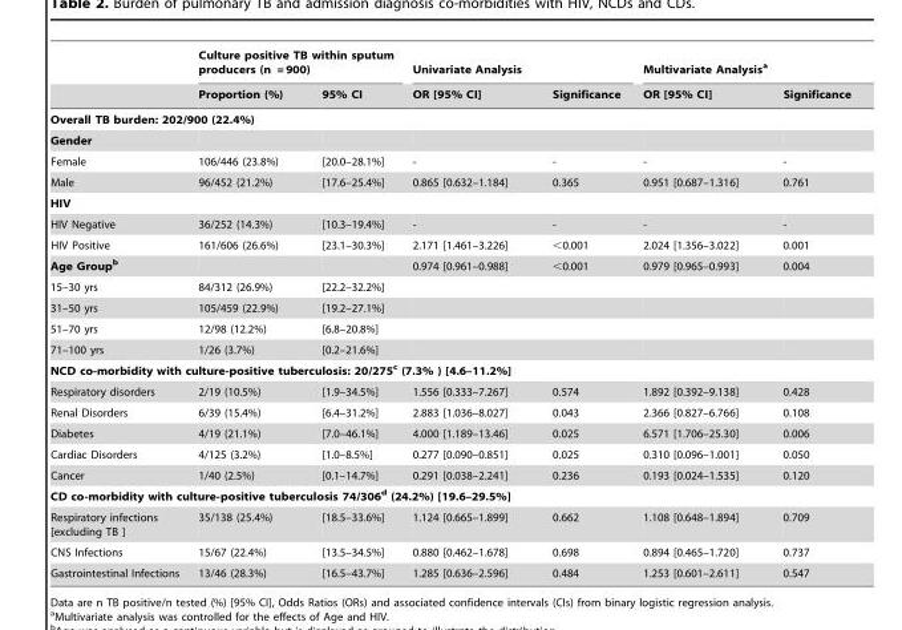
<table><thead><tr><td rowspan="2"></td><td colspan="2">Culture positive TB within sputum producers (n = 900)</td><td colspan="2">Univariate Analysis</td><td colspan="2">Multivariate Analysis<sup>a</sup></td></tr><tr><td>Proportion (%)</td><td>95% CI</td><td>OR [95% CI]</td><td>Significance</td><td>OR [95% CI]</td><td>Significance</td></tr></thead><tbody><tr><td colspan="7">Overall TB burden: 202/900 (22.4%)</td></tr><tr><td colspan="7">Gender</td></tr><tr><td>Female</td><td>106/446 (23.8%)</td><td>[20.0–28.1%]</td><td>-</td><td>-</td><td>-</td><td>-</td></tr><tr><td>Male</td><td>96/452 (21.2%)</td><td>[17.6–25.4%]</td><td>0.865 [0.632–1.184]</td><td>0.365</td><td>0.951 [0.687–1.316]</td><td>0.761</td></tr><tr><td colspan="7">HIV</td></tr><tr><td>HIV Negative</td><td>36/252 (14.3%)</td><td>[10.3–19.4%]</td><td>-</td><td>-</td><td>-</td><td>-</td></tr><tr><td>HIV Positive</td><td>161/606 (26.6%)</td><td>[23.1–30.3%]</td><td>2.171 [1.461–3.226]</td><td>&lt;0.001</td><td>2.024 [1.356–3.022]</td><td>0.001</td></tr><tr><td>Age Groupb</td><td></td><td></td><td>0.974 [0.961–0.988]</td><td>&lt;0.001</td><td>0.979 [0.965–0.993]</td><td>0.004</td></tr><tr><td>15–30 yrs</td><td>84/312 (26.9%)</td><td>[22.2–32.2%]</td><td></td><td></td><td></td><td></td></tr><tr><td>31–50 yrs</td><td>105/459 (22.9%)</td><td>[19.2–27.1%]</td><td></td><td></td><td></td><td></td></tr><tr><td>51–70 yrs</td><td>12/98 (12.2%)</td><td>[6.8–20.8%]</td><td></td><td></td><td></td><td></td></tr><tr><td>71–100 yrs</td><td>1/26 (3.7%)</td><td>[0.2–21.6%]</td><td></td><td></td><td></td><td></td></tr><tr><td colspan="7">NCD co-morbidity with culture-positive tuberculosis: 20/275c (7.3% ) [4.6–11.2%]</td></tr><tr><td>Respiratory disorders</td><td>2/19 (10.5%)</td><td>[1.9–34.5%]</td><td>1.556 [0.333–7.267]</td><td>0.574</td><td>1.892 [0.392–9.138]</td><td>0.428</td></tr><tr><td>Renal Disorders</td><td>6/39 (15.4%)</td><td>[6.4–31.2%]</td><td>2.883 [1.036–8.027]</td><td>0.043</td><td>2.366 [0.827–6.766]</td><td>0.108</td></tr><tr><td>Diabetes</td><td>4/19 (21.1%)</td><td>[7.0–46.1%]</td><td>4.000 [1.189–13.46]</td><td>0.025</td><td>6.571 [1.706–25.30]</td><td>0.006</td></tr><tr><td>Cardiac Disorders</td><td>4/125 (3.2%)</td><td>[1.0–8.5%]</td><td>0.277 [0.090–0.851]</td><td>0.025</td><td>0.310 [0.096–1.001]</td><td>0.050</td></tr><tr><td>Cancer</td><td>1/40 (2.5%)</td><td>[0.1–14.7%]</td><td>0.291 [0.038–2.241]</td><td>0.236</td><td>0.193 [0.024–1.535]</td><td>0.120</td></tr><tr><td colspan="7">CD co-morbidity with culture-positive tuberculosis 74/306d (24.2%) [19.6–29.5%]</td></tr><tr><td>Respiratory infections [excluding TB ]</td><td>35/138 (25.4%)</td><td>[18.5–33.6%]</td><td>1.124 [0.665–1.899]</td><td>0.662</td><td>1.108 [0.648–1.894]</td><td>0.709</td></tr><tr><td>CNS Infections</td><td>15/67 (22.4%)</td><td>[13.5–34.5%]</td><td>0.880 [0.462–1.678]</td><td>0.698</td><td>0.894 [0.465–1.720]</td><td>0.737</td></tr><tr><td>Gastrointestinal Infections</td><td>13/46 (28.3%)</td><td>[16.5–43.7%]</td><td>1.285 [0.636–2.596]</td><td>0.484</td><td>1.253 [0.601–2.611]</td><td>0.547</td></tr></tbody></table>